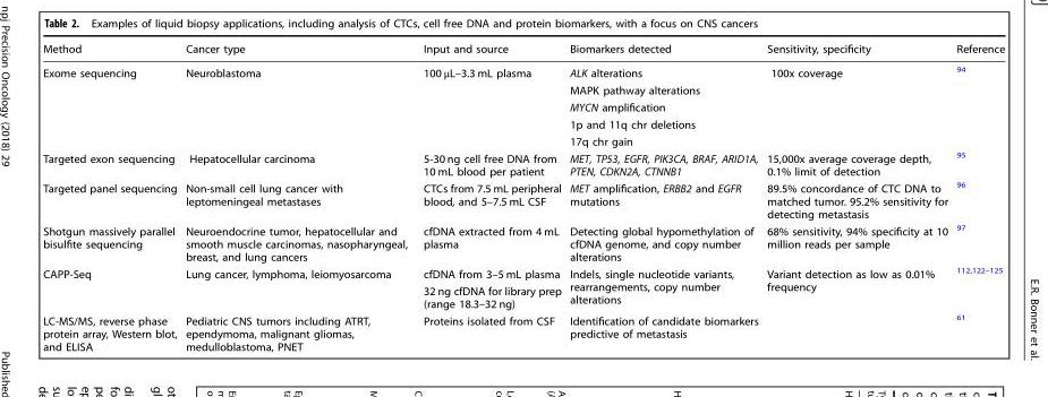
<table><thead><tr><td>Method</td><td>Cancer type</td><td>Input and source</td><td>Biomarkers detected</td><td>Sensitivity, specificity</td><td>Reference</td></tr></thead><tbody><tr><td rowspan="5">Exome sequencing</td><td rowspan="5">Neuroblastoma</td><td rowspan="5">100 μL–3.3 mL plasma</td><td>ALK alterations</td><td rowspan="5">100x coverage</td><td rowspan="5"><sup>94</sup></td></tr><tr><td>MAPK pathway alterations</td></tr><tr><td>MYCN amplification</td></tr><tr><td>1p and 11q chr deletions</td></tr><tr><td>17q chr gain</td></tr><tr><td>Targeted exon sequencing</td><td>Hepatocellular carcinoma</td><td>5-30 ng cell free DNA from 10 mL blood per patient</td><td>MET, TP53, EGFR, PIK3CA, BRAF, ARID1A, PTEN, CDKN2A, CTNNB1</td><td>15,000x average coverage depth, 0.1% limit of detection</td><td><sup>95</sup></td></tr><tr><td>Targeted panel sequencing</td><td>Non-small cell lung cancer with leptomeningeal metastases</td><td>CTCs from 7.5 mL peripheral blood, and 5–7.5 mL CSF</td><td>MET amplification, ERBB2 and EGFR mutations</td><td>89.5% concordance of CTC DNA to matched tumor. 95.2% sensitivity for detecting metastasis</td><td><sup>96</sup></td></tr><tr><td>Shotgun massively parallel bisulfite sequencing</td><td>Neuroendocrine tumor, hepatocellular and smooth muscle carcinomas, nasopharyngeal, breast, and lung cancers</td><td>cfDNA extracted from 4 mL plasma</td><td>Detecting global hypomethylation of cfDNA genome, and copy number alterations</td><td>68% sensitivity, 94% specificity at 10 million reads per sample</td><td><sup>97</sup></td></tr><tr><td rowspan="2">CAPP-Seq</td><td rowspan="2">Lung cancer, lymphoma, leiomyosarcoma</td><td>cfDNA from 3–5 mL plasma</td><td rowspan="2">Indels, single nucleotide variants, rearrangements, copy number alterations</td><td rowspan="2">Variant detection as low as 0.01% frequency</td><td rowspan="2"><sup>112,122–125</sup></td></tr><tr><td>32 ng cfDNA for library prep (range 18.3–32 ng)</td></tr><tr><td>LC-MS/MS, reverse phase protein array, Western blot, and ELISA</td><td>Pediatric CNS tumors including ATRT, ependymoma, malignant gliomas, medulloblastoma, PNET</td><td>Proteins isolated from CSF</td><td>Identification of candidate biomarkers predictive of metastasis</td><td></td><td><sup>61</sup></td></tr></tbody></table>